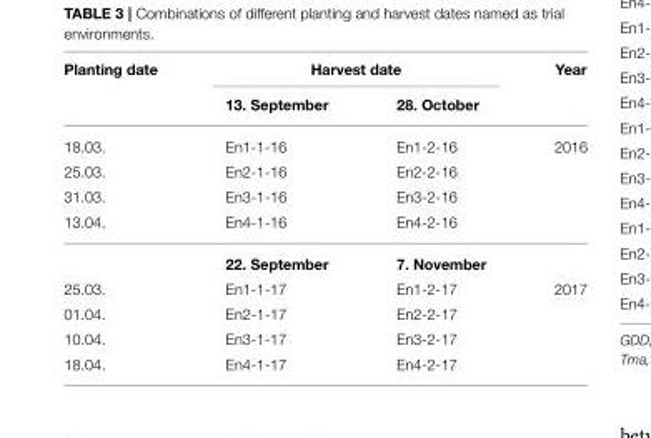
<table><thead><tr><td rowspan="2">Planting date</td><td colspan="2">Harvest date</td><td rowspan="2">Year</td></tr><tr><td>13. September</td><td>28. October</td></tr></thead><tbody><tr><td>18.03.</td><td>En1-1-16</td><td>En1-2-16</td><td>2016</td></tr><tr><td>25.03.</td><td>En2-1-16</td><td>En2-2-16</td><td></td></tr><tr><td>31.03.</td><td>En3-1-16</td><td>En3-2-16</td><td></td></tr><tr><td rowspan="2">13.04.</td><td>En4-1-16</td><td>En4-2-16</td><td></td></tr><tr><td>22. September</td><td>7. November</td><td></td></tr><tr><td>25.03.</td><td>En1-1-17</td><td>En1-2-17</td><td>2017</td></tr><tr><td>01.04.</td><td>En2-1-17</td><td>En2-2-17</td><td></td></tr><tr><td>10.04.</td><td>En3-1-17</td><td>En3-2-17</td><td></td></tr><tr><td>18.04.</td><td>En4-1-17</td><td>En4-2-17</td><td></td></tr></tbody></table>